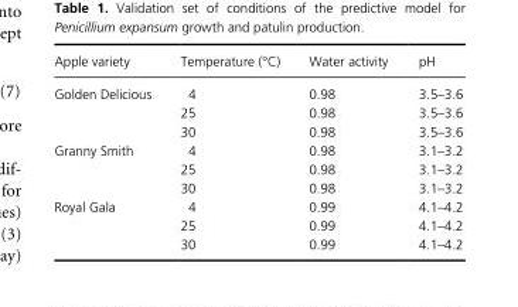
<table><thead><tr><td>Apple variety</td><td>Temperature (°C)</td><td>Water activity</td><td>pH</td></tr></thead><tbody><tr><td rowspan="3">Golden Delicious</td><td>4</td><td>0.98</td><td>3.5–3.6</td></tr><tr><td>25</td><td>0.98</td><td>3.5–3.6</td></tr><tr><td>30</td><td>0.98</td><td>3.5–3.6</td></tr><tr><td rowspan="3">Granny Smith</td><td>4</td><td>0.98</td><td>3.1–3.2</td></tr><tr><td>25</td><td>0.98</td><td>3.1–3.2</td></tr><tr><td>30</td><td>0.98</td><td>3.1–3.2</td></tr><tr><td rowspan="3">Royal Gala</td><td>4</td><td>0.99</td><td>4.1–4.2</td></tr><tr><td>25</td><td>0.99</td><td>4.1–4.2</td></tr><tr><td>30</td><td>0.99</td><td>4.1–4.2</td></tr></tbody></table>